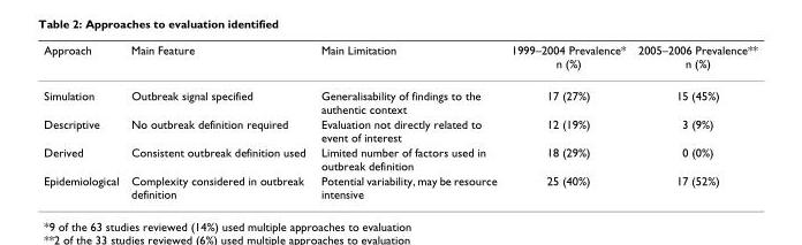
<table><thead><tr><td>Approach</td><td>Main Feature</td><td>Main Limitation</td><td>1999–2004 Prevalence* n (%)</td><td>2005–2006 Prevalence** n (%)</td></tr></thead><tbody><tr><td>Simulation</td><td>Outbreak signal specified</td><td>Generalisability of findings to the authentic context</td><td>17 (27%)</td><td>15 (45%)</td></tr><tr><td>Descriptive</td><td>No outbreak definition required</td><td>Evaluation not directly related to event of interest</td><td>12 (19%)</td><td>3 (9%)</td></tr><tr><td>Derived</td><td>Consistent outbreak definition used</td><td>Limited number of factors used in outbreak definition</td><td>18 (29%)</td><td>0 (0%)</td></tr><tr><td>Epidemiological</td><td>Complexity considered in outbreak definition</td><td>Potential variability, may be resource intensive</td><td>25 (40%)</td><td>17 (52%)</td></tr></tbody></table>